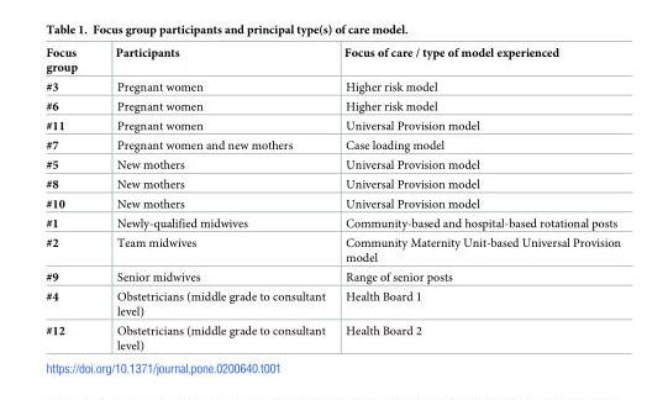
<table><thead><tr><td>Focus group</td><td>Participants</td><td>Focus of care / type of model experienced</td></tr></thead><tbody><tr><td>#3</td><td>Pregnant women</td><td>Higher risk model</td></tr><tr><td>#6</td><td>Pregnant women</td><td>Higher risk model</td></tr><tr><td>#11</td><td>Pregnant women</td><td>Universal Provision model</td></tr><tr><td>#7</td><td>Pregnant women and new mothers</td><td>Case loading model</td></tr><tr><td>#5</td><td>New mothers</td><td>Universal Provision model</td></tr><tr><td>#8</td><td>New mothers</td><td>Universal Provision model</td></tr><tr><td>#10</td><td>New mothers</td><td>Universal Provision model</td></tr><tr><td>#1</td><td>Newly-qualified midwives</td><td>Community-based and hospital-based rotational posts</td></tr><tr><td>#2</td><td>Team midwives</td><td>Community Maternity Unit-based Universal Provision model</td></tr><tr><td>#9</td><td>Senior midwives</td><td>Range of senior posts</td></tr><tr><td>#4</td><td>Obstetricians (middle grade to consultant level)</td><td>Health Board 1</td></tr><tr><td>#12</td><td>Obstetricians (middle grade to consultant level)</td><td>Health Board 2</td></tr></tbody></table>